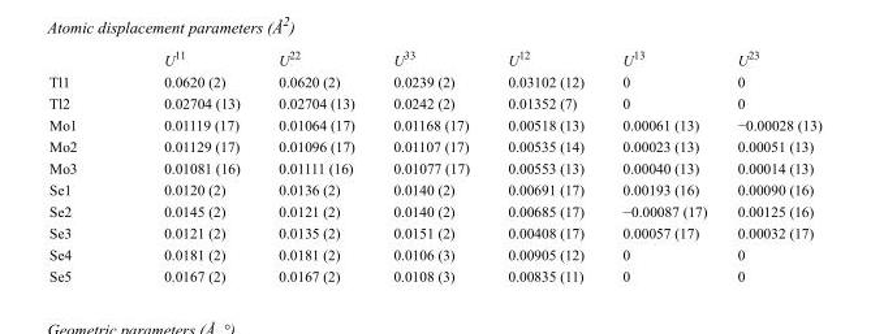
<table><thead><tr><td></td><td>U<sup>11</sup></td><td>U<sup>22</sup></td><td>U<sup>33</sup></td><td>U<sup>12</sup></td><td>U<sup>13</sup></td><td>U<sup>23</sup></td></tr></thead><tbody><tr><td>Tl1</td><td>0.0620 (2)</td><td>0.0620 (2)</td><td>0.0239 (2)</td><td>0.03102 (12)</td><td>0</td><td>0</td></tr><tr><td>Tl2</td><td>0.02704 (13)</td><td>0.02704 (13)</td><td>0.0242 (2)</td><td>0.01352 (7)</td><td>0</td><td>0</td></tr><tr><td>Mo1</td><td>0.01119 (17)</td><td>0.01064 (17)</td><td>0.01168 (17)</td><td>0.00518 (13)</td><td>0.00061 (13)</td><td>−0.00028 (13)</td></tr><tr><td>Mo2</td><td>0.01129 (17)</td><td>0.01096 (17)</td><td>0.01107 (17)</td><td>0.00535 (14)</td><td>0.00023 (13)</td><td>0.00051 (13)</td></tr><tr><td>Mo3</td><td>0.01081 (16)</td><td>0.01111 (16)</td><td>0.01077 (17)</td><td>0.00553 (13)</td><td>0.00040 (13)</td><td>0.00014 (13)</td></tr><tr><td>Se1</td><td>0.0120 (2)</td><td>0.0136 (2)</td><td>0.0140 (2)</td><td>0.00691 (17)</td><td>0.00193 (16)</td><td>0.00090 (16)</td></tr><tr><td>Se2</td><td>0.0145 (2)</td><td>0.0121 (2)</td><td>0.0140 (2)</td><td>0.00685 (17)</td><td>−0.00087 (17)</td><td>0.00125 (16)</td></tr><tr><td>Se3</td><td>0.0121 (2)</td><td>0.0135 (2)</td><td>0.0151 (2)</td><td>0.00408 (17)</td><td>0.00057 (17)</td><td>0.00032 (17)</td></tr><tr><td>Se4</td><td>0.0181 (2)</td><td>0.0181 (2)</td><td>0.0106 (3)</td><td>0.00905 (12)</td><td>0</td><td>0</td></tr><tr><td>Se5</td><td>0.0167 (2)</td><td>0.0167 (2)</td><td>0.0108 (3)</td><td>0.00835 (11)</td><td>0</td><td>0</td></tr></tbody></table>